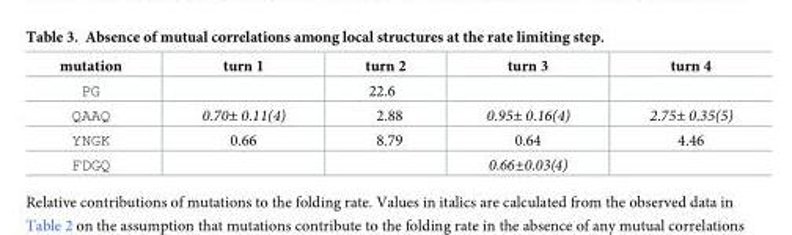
<table><thead><tr><td>mutation</td><td>turn 1</td><td>turn 2</td><td>turn 3</td><td>turn 4</td></tr></thead><tbody><tr><td>PG</td><td></td><td>22.6</td><td></td><td></td></tr><tr><td>QAAQ</td><td>0.70± 0.11(4)</td><td>2.88</td><td>0.95± 0.16(4)</td><td>2.75± 0.35(5)</td></tr><tr><td>YNGK</td><td>0.66</td><td>8.79</td><td>0.64</td><td>4.46</td></tr><tr><td>FDGQ</td><td></td><td></td><td>0.66±0.03(4)</td><td></td></tr></tbody></table>